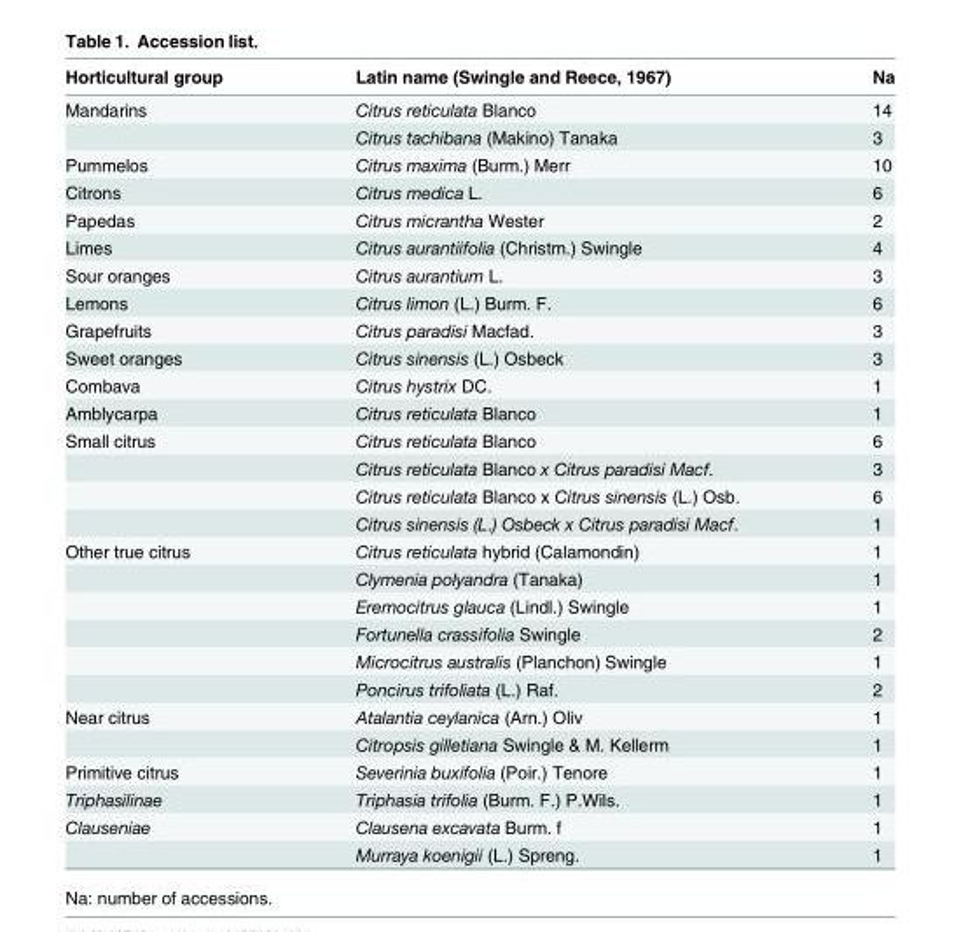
<table><thead><tr><td>Horticultural group</td><td>Latin name (Swingle and Reece, 1967)</td><td>Na</td></tr></thead><tbody><tr><td rowspan="2">Mandarins</td><td>Citrus reticulata Blanco</td><td>14</td></tr><tr><td>Citrus tachibana (Makino) Tanaka</td><td>3</td></tr><tr><td>Pummelos</td><td>Citrus maxima (Burm.) Merr</td><td>10</td></tr><tr><td>Citrons</td><td>Citrus medica L.</td><td>6</td></tr><tr><td>Papedas</td><td>Citrus micrantha Wester</td><td>2</td></tr><tr><td>Limes</td><td>Citrus aurantiifolia (Christm.) Swingle</td><td>4</td></tr><tr><td>Sour oranges</td><td>Citrus aurantium L.</td><td>3</td></tr><tr><td>Lemons</td><td>Citrus limon (L.) Burm. F.</td><td>6</td></tr><tr><td>Grapefruits</td><td>Citrus paradisi Macfad.</td><td>3</td></tr><tr><td>Sweet oranges</td><td>Citrus sinensis (L.) Osbeck</td><td>3</td></tr><tr><td>Combava</td><td>Citrus hystrix DC.</td><td>1</td></tr><tr><td>Amblycarpa</td><td>Citrus reticulata Blanco</td><td>1</td></tr><tr><td rowspan="4">Small citrus</td><td>Citrus reticulata Blanco</td><td>6</td></tr><tr><td>Citrus reticulata Blanco x Citrus paradisi Macf.</td><td>3</td></tr><tr><td>Citrus reticulata Blanco x Citrus sinensis (L.) Osb.</td><td>6</td></tr><tr><td>Citrus sinensis (L.) Osbeck x Citrus paradisi Macf.</td><td>1</td></tr><tr><td rowspan="6">Other true citrus</td><td>Citrus reticulata hybrid (Calamondin)</td><td>1</td></tr><tr><td>Clymenia polyandra (Tanaka)</td><td>1</td></tr><tr><td>Eremocitrus glauca (Lindl.) Swingle</td><td>1</td></tr><tr><td>Fortunella crassifolia Swingle</td><td>2</td></tr><tr><td>Microcitrus australis (Planchon) Swingle</td><td>1</td></tr><tr><td>Poncirus trifoliata (L.) Raf.</td><td>2</td></tr><tr><td rowspan="2">Near citrus</td><td>Atalantia ceylanica (Arn.) Oliv</td><td>1</td></tr><tr><td>Citropsis gilletiana Swingle &amp; M. Kellerm</td><td>1</td></tr><tr><td>Primitive citrus</td><td>Severinia buxifolia (Poir.) Tenore</td><td>1</td></tr><tr><td>Triphasilinae</td><td>Triphasia trifolia (Burm. F.) P.Wils.</td><td>1</td></tr><tr><td rowspan="2">Clauseniae</td><td>Clausena excavata Burm. f</td><td>1</td></tr><tr><td>Murraya koenigii (L.) Spreng.</td><td>1</td></tr></tbody></table>